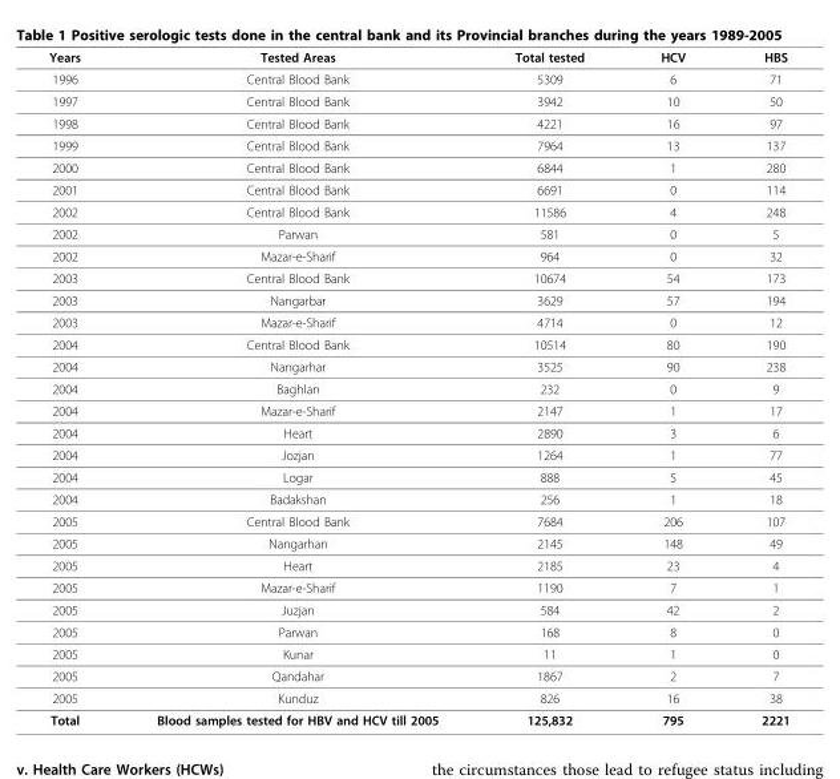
<table><thead><tr><td>Years</td><td>Tested Areas</td><td>Total tested</td><td>HCV</td><td>HBS</td></tr></thead><tbody><tr><td>1996</td><td>Central Blood Bank</td><td>5309</td><td>6</td><td>71</td></tr><tr><td>1997</td><td>Central Blood Bank</td><td>3942</td><td>10</td><td>50</td></tr><tr><td>1998</td><td>Central Blood Bank</td><td>4221</td><td>16</td><td>97</td></tr><tr><td>1999</td><td>Central Blood Bank</td><td>7964</td><td>13</td><td>137</td></tr><tr><td>2000</td><td>Central Blood Bank</td><td>6844</td><td>1</td><td>280</td></tr><tr><td>2001</td><td>Central Blood Bank</td><td>6691</td><td>0</td><td>114</td></tr><tr><td>2002</td><td>Central Blood Bank</td><td>11586</td><td>4</td><td>248</td></tr><tr><td>2002</td><td>Parwan</td><td>581</td><td>0</td><td>5</td></tr><tr><td>2002</td><td>Mazar-e-Sharif</td><td>964</td><td>0</td><td>32</td></tr><tr><td>2003</td><td>Central Blood Bank</td><td>10674</td><td>54</td><td>173</td></tr><tr><td>2003</td><td>Nangarbar</td><td>3629</td><td>57</td><td>194</td></tr><tr><td>2003</td><td>Mazar-e-Sharif</td><td>4714</td><td>0</td><td>12</td></tr><tr><td>2004</td><td>Central Blood Bank</td><td>10514</td><td>80</td><td>190</td></tr><tr><td>2004</td><td>Nangarhar</td><td>3525</td><td>90</td><td>238</td></tr><tr><td>2004</td><td>Baghlan</td><td>232</td><td>0</td><td>9</td></tr><tr><td>2004</td><td>Mazar-e-Sharif</td><td>2147</td><td>1</td><td>17</td></tr><tr><td>2004</td><td>Heart</td><td>2890</td><td>3</td><td>6</td></tr><tr><td>2004</td><td>Jozjan</td><td>1264</td><td>1</td><td>77</td></tr><tr><td>2004</td><td>Logar</td><td>888</td><td>5</td><td>45</td></tr><tr><td>2004</td><td>Badakshan</td><td>256</td><td>1</td><td>18</td></tr><tr><td>2005</td><td>Central Blood Bank</td><td>7684</td><td>206</td><td>107</td></tr><tr><td>2005</td><td>Nangarhan</td><td>2145</td><td>148</td><td>49</td></tr><tr><td>2005</td><td>Heart</td><td>2185</td><td>23</td><td>4</td></tr><tr><td>2005</td><td>Mazar-e-Sharif</td><td>1190</td><td>7</td><td>1</td></tr><tr><td>2005</td><td>Juzjan</td><td>584</td><td>42</td><td>2</td></tr><tr><td>2005</td><td>Parwan</td><td>168</td><td>8</td><td>0</td></tr><tr><td>2005</td><td>Kunar</td><td>11</td><td>1</td><td>0</td></tr><tr><td>2005</td><td>Qandahar</td><td>1867</td><td>2</td><td>7</td></tr><tr><td>2005</td><td>Kunduz</td><td>826</td><td>16</td><td>38</td></tr><tr><td>Total</td><td>Blood samples tested for HBV and HCV till 2005</td><td>125,832</td><td>795</td><td>2221</td></tr></tbody></table>